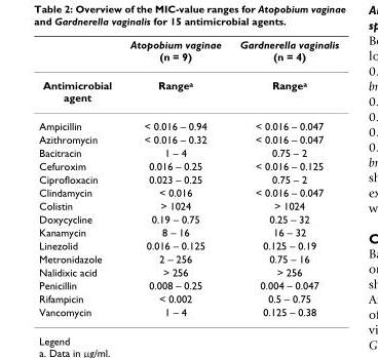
<table><thead><tr><td></td><td>Atopobium vaginae (n = 9)</td><td>Gardnerella vaginalis (n = 4)</td></tr></thead><tbody><tr><td>Antimicrobial agent</td><td>Range<sup>a</sup></td><td>Range<sup>a</sup></td></tr><tr><td>Ampicillin</td><td>&lt; 0.016 – 0.94</td><td>&lt; 0.016 – 0.047</td></tr><tr><td>Azithromycin</td><td>&lt; 0.016 – 0.32</td><td>&lt; 0.016 – 0.047</td></tr><tr><td>Bacitracin</td><td>1 – 4</td><td>0.75 – 2</td></tr><tr><td>Cefuroxim</td><td>0.016 – 0.25</td><td>&lt; 0.016 – 0.125</td></tr><tr><td>Ciprofloxacin</td><td>0.023 – 0.25</td><td>0.75 – 2</td></tr><tr><td>Clindamycin</td><td>&lt; 0.016</td><td>&lt; 0.016 – 0.047</td></tr><tr><td>Colistin</td><td>&gt; 1024</td><td>&gt; 1024</td></tr><tr><td>Doxycycline</td><td>0.19 – 0.75</td><td>0.25 – 32</td></tr><tr><td>Kanamycin</td><td>8 – 16</td><td>16 – 32</td></tr><tr><td>Linezolid</td><td>0.016 – 0.125</td><td>0.125 – 0.19</td></tr><tr><td>Metronidazole</td><td>2 – 256</td><td>0.75 – 16</td></tr><tr><td>Nalidixic acid</td><td>&gt; 256</td><td>&gt; 256</td></tr><tr><td>Penicillin</td><td>0.008 – 0.25</td><td>0.004 – 0.047</td></tr><tr><td>Rifampicin</td><td>&lt; 0.002</td><td>0.5 – 0.75</td></tr><tr><td>Vancomycin</td><td>1 – 4</td><td>0.125 – 0.38</td></tr></tbody></table>